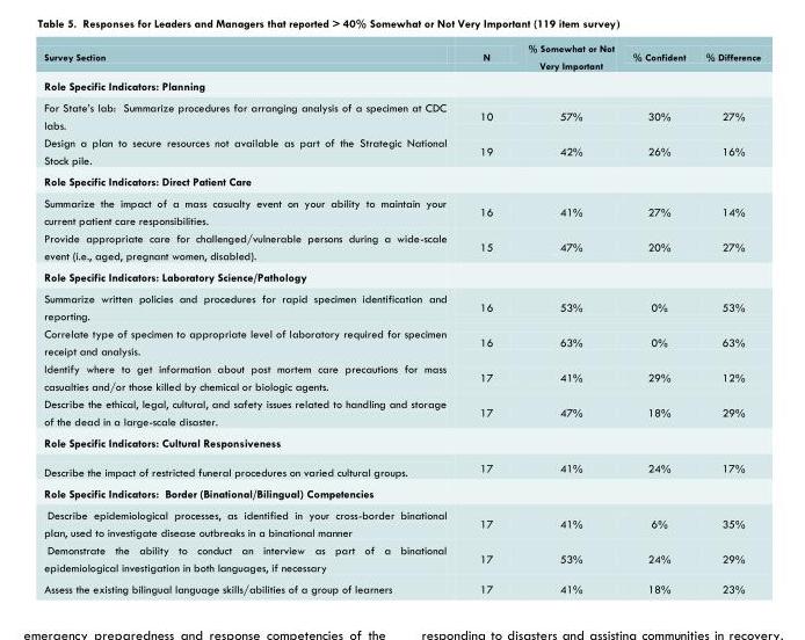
<table><thead><tr><td>Survey Section</td><td>N</td><td>% Somewhat or Not Very Important</td><td>% Confident</td><td>% Difference</td></tr></thead><tbody><tr><td colspan="5">Role Specific Indicators: Planning</td></tr><tr><td>For State’s lab: Summarize procedures for arranging analysis of a specimen at CDC labs.</td><td>10</td><td>57%</td><td>30%</td><td>27%</td></tr><tr><td>Design a plan to secure resources not available as part of the Strategic National Stock pile.</td><td>19</td><td>42%</td><td>26%</td><td>16%</td></tr><tr><td colspan="5">Role Specific Indicators: Direct Patient Care</td></tr><tr><td>Summarize the impact of a mass casualty event on your ability to maintain your current patient care responsibilities.</td><td>16</td><td>41%</td><td>27%</td><td>14%</td></tr><tr><td>Provide appropriate care for challenged/vulnerable persons during a wide-scale event (i.e., aged, pregnant women, disabled).</td><td>15</td><td>47%</td><td>20%</td><td>27%</td></tr><tr><td colspan="5">Role Specific Indicators: Laboratory Science/Pathology</td></tr><tr><td>Summarize written policies and procedures for rapid specimen identification and reporting.</td><td>16</td><td>53%</td><td>0%</td><td>53%</td></tr><tr><td>Correlate type of specimen to appropriate level of laboratory required for specimen receipt and analysis.</td><td>16</td><td>63%</td><td>0%</td><td>63%</td></tr><tr><td>Identify where to get information about post mortem care precautions for mass casualties and/or those killed by chemical or biologic agents.</td><td>17</td><td>41%</td><td>29%</td><td>12%</td></tr><tr><td>Describe the ethical, legal, cultural, and safety issues related to handling and storage of the dead in a large-scale disaster.</td><td>17</td><td>47%</td><td>18%</td><td>29%</td></tr><tr><td colspan="5">Role Specific Indicators: Cultural Responsiveness</td></tr><tr><td>Describe the impact of restricted funeral procedures on varied cultural groups.</td><td>17</td><td>41%</td><td>24%</td><td>17%</td></tr><tr><td colspan="5">Role Specific Indicators: Border (Binational/Bilingual) Competencies</td></tr><tr><td>Describe epidemiological processes, as identified in your cross-border binational plan, used to investigate disease outbreaks in a binational manner</td><td>17</td><td>41%</td><td>6%</td><td>35%</td></tr><tr><td>Demonstrate the ability to conduct an interview as part of a binational epidemiological investigation in both languages, if necessary</td><td>17</td><td>53%</td><td>24%</td><td>29%</td></tr><tr><td>Assess the existing bilingual language skills/abilities of a group of learners</td><td>17</td><td>41%</td><td>18%</td><td>23%</td></tr></tbody></table>